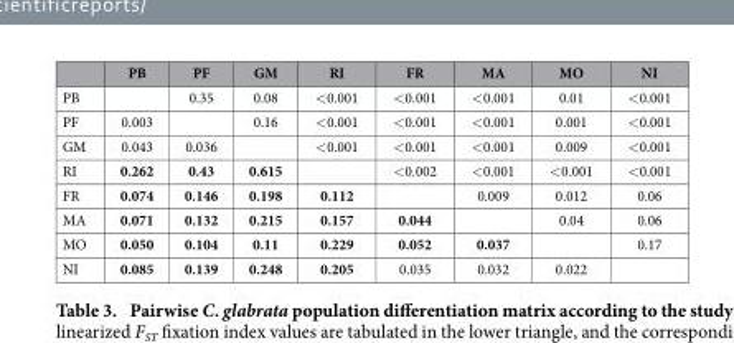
<table><thead><tr><td></td><td>PB</td><td>PF</td><td>GM</td><td>RI</td><td>FR</td><td>MA</td><td>MO</td><td>NI</td></tr></thead><tbody><tr><td>PB</td><td></td><td>0.35</td><td>0.08</td><td>&lt; 0.001</td><td>&lt; 0.001</td><td>&lt; 0.001</td><td>0.01</td><td>&lt; 0.001</td></tr><tr><td>PF</td><td>0.003</td><td></td><td>0.16</td><td>&lt; 0.001</td><td>&lt; 0.001</td><td>&lt; 0.001</td><td>0.001</td><td>&lt; 0.001</td></tr><tr><td>GM</td><td>0.043</td><td>0.036</td><td></td><td>&lt; 0.001</td><td>&lt; 0.001</td><td>&lt; 0.001</td><td>0.009</td><td>&lt; 0.001</td></tr><tr><td>RI</td><td>0.262</td><td>0.43</td><td>0.615</td><td></td><td>&lt; 0.002</td><td>&lt; 0.001</td><td>&lt; 0.001</td><td>&lt; 0.001</td></tr><tr><td>FR</td><td>0.074</td><td>0.146</td><td>0.198</td><td>0.112</td><td></td><td>0.009</td><td>0.012</td><td>0.06</td></tr><tr><td>MA</td><td>0.071</td><td>0.132</td><td>0.215</td><td>0.157</td><td>0.044</td><td></td><td>0.04</td><td>0.06</td></tr><tr><td>MO</td><td>0.050</td><td>0.104</td><td>0.11</td><td>0.229</td><td>0.052</td><td>0.037</td><td></td><td>0.17</td></tr><tr><td>NI</td><td>0.085</td><td>0.139</td><td>0.248</td><td>0.205</td><td>0.035</td><td>0.032</td><td>0.022</td><td></td></tr></tbody></table>